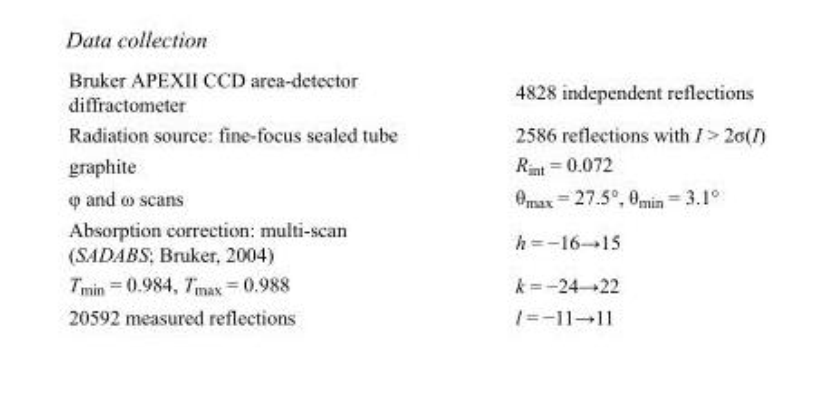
<table><tbody><tr><td>Bruker APEXII CCD area-detector diffractometer</td><td>4828 independent reflections</td></tr><tr><td>Radiation source: fine-focus sealed tube</td><td>2586 reflections with I &gt; 2σ(I)</td></tr><tr><td>graphite</td><td>R<sub>int</sub> = 0.072</td></tr><tr><td>φ and ω scans</td><td>θ<sub>max</sub> = 27.5°, θ<sub>min</sub> = 3.1°</td></tr><tr><td>Absorption correction: multi-scan (SADABS; Bruker, 2004)</td><td>h = −16→15</td></tr><tr><td>T<sub>min</sub> = 0.984, T<sub>max</sub> = 0.988</td><td>k = −24→22</td></tr><tr><td>20592 measured reflections</td><td>l = −11→11</td></tr></tbody></table>